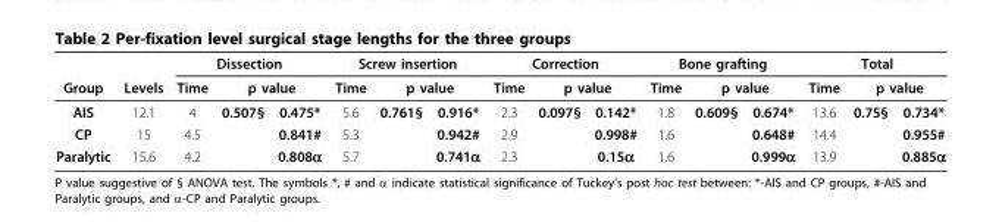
<table><thead><tr><td rowspan="3">Group AIS</td><td rowspan="3">Levels 12.1</td><td colspan="3">Dissection</td><td colspan="3">Screw insertion</td><td colspan="3">Correction</td><td colspan="3">Bone grafting</td><td colspan="3">Total</td></tr><tr><td rowspan="2">Time 4</td><td colspan="2">p value</td><td rowspan="2">Time 5.6</td><td colspan="2">p value</td><td rowspan="2">Time 2.3</td><td colspan="2">p value</td><td rowspan="2">Time 1.8</td><td colspan="2">p value</td><td rowspan="2">Time 13.6</td><td colspan="2">p value</td></tr><tr><td>0.507§</td><td>0.475*</td><td>0.761§</td><td>0.916*</td><td>0.097§</td><td>0.142*</td><td>0.609§</td><td>0.674*</td><td>0.75§</td><td>0.734*</td></tr></thead><tbody><tr><td>CP</td><td>15</td><td>4.5</td><td></td><td>0.841#</td><td>5.3</td><td></td><td>0.942#</td><td>2.9</td><td></td><td>0.998#</td><td>1.6</td><td></td><td>0.648#</td><td>14.4</td><td></td><td>0.955#</td></tr><tr><td>Paralytic</td><td>15.6</td><td>4.2</td><td></td><td>0.808α</td><td>5.7</td><td></td><td>0.741α</td><td>2.3</td><td></td><td>0.15α</td><td>1.6</td><td></td><td>0.999α</td><td>13.9</td><td></td><td>0.885α</td></tr></tbody></table>